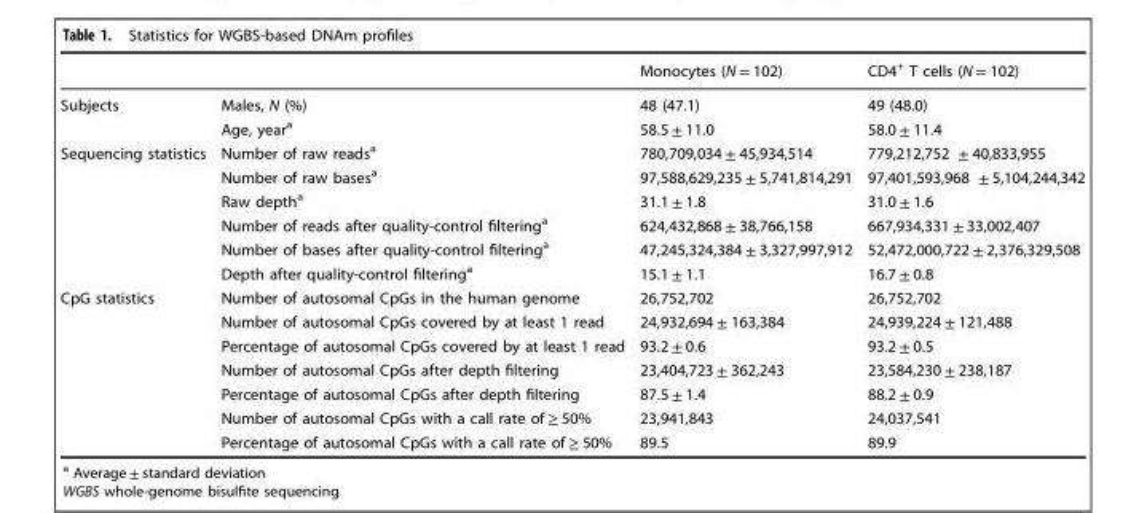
<table><thead><tr><td></td><td></td><td>Monocytes (N = 102)</td><td>CD4<sup>+</sup> T cells (N = 102)</td></tr></thead><tbody><tr><td rowspan="2">Subjects</td><td>Males, N (%)</td><td>48 (47.1)</td><td>49 (48.0)</td></tr><tr><td>Age, year<sup>a</sup></td><td>58.5 ± 11.0</td><td>58.0 ± 11.4</td></tr><tr><td rowspan="6">Sequencing statistics</td><td>Number of raw reads<sup>a</sup></td><td>780,709,034 ± 45,934,514</td><td>779,212,752 ± 40,833,955</td></tr><tr><td>Number of raw bases<sup>a</sup></td><td>97,588,629,235 ± 5,741,814,291</td><td>97,401,593,968 ± 5,104,244,342</td></tr><tr><td>Raw depth<sup>a</sup></td><td>31.1 ± 1.8</td><td>31.0 ± 1.6</td></tr><tr><td>Number of reads after quality-control filtering<sup>a</sup></td><td>624,432,868 ± 38,766,158</td><td>667,934,331 ± 33,002,407</td></tr><tr><td>Number of bases after quality-control filtering<sup>a</sup></td><td>47,245,324,384 ± 3,327,997,912</td><td>52,472,000,722 ± 2,376,329,508</td></tr><tr><td>Depth after quality-control filtering<sup>a</sup></td><td>15.1 ± 1.1</td><td>16.7 ± 0.8</td></tr><tr><td rowspan="7">CpG statistics</td><td>Number of autosomal CpGs in the human genome</td><td>26,752,702</td><td>26,752,702</td></tr><tr><td>Number of autosomal CpGs covered by at least 1 read</td><td>24,932,694 ± 163,384</td><td>24,939,224 ± 121,488</td></tr><tr><td>Percentage of autosomal CpGs covered by at least 1 read</td><td>93.2 ± 0.6</td><td>93.2 ± 0.5</td></tr><tr><td>Number of autosomal CpGs after depth filtering</td><td>23,404,723 ± 362,243</td><td>23,584,230 ± 238,187</td></tr><tr><td>Percentage of autosomal CpGs after depth filtering</td><td>87.5 ± 1.4</td><td>88.2 ± 0.9</td></tr><tr><td>Number of autosomal CpGs with a call rate of ≥ 50%</td><td>23,941,843</td><td>24,037,541</td></tr><tr><td>Percentage of autosomal CpGs with a call rate of ≥ 50%</td><td>89.5</td><td>89.9</td></tr></tbody></table>